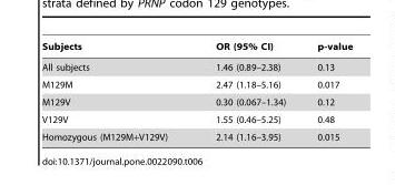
<table><thead><tr><td>Subjects</td><td>OR (95% CI)</td><td>p-value</td></tr></thead><tbody><tr><td>All subjects</td><td>1.46 (0.89–2.38)</td><td>0.13</td></tr><tr><td>M129M</td><td>2.47 (1.18–5.16)</td><td>0.017</td></tr><tr><td>M129V</td><td>0.30 (0.067–1.34)</td><td>0.12</td></tr><tr><td>V129V</td><td>1.55 (0.46–5.25)</td><td>0.48</td></tr><tr><td>Homozygous (M129M+V129V)</td><td>2.14 (1.16–3.95)</td><td>0.015</td></tr></tbody></table>